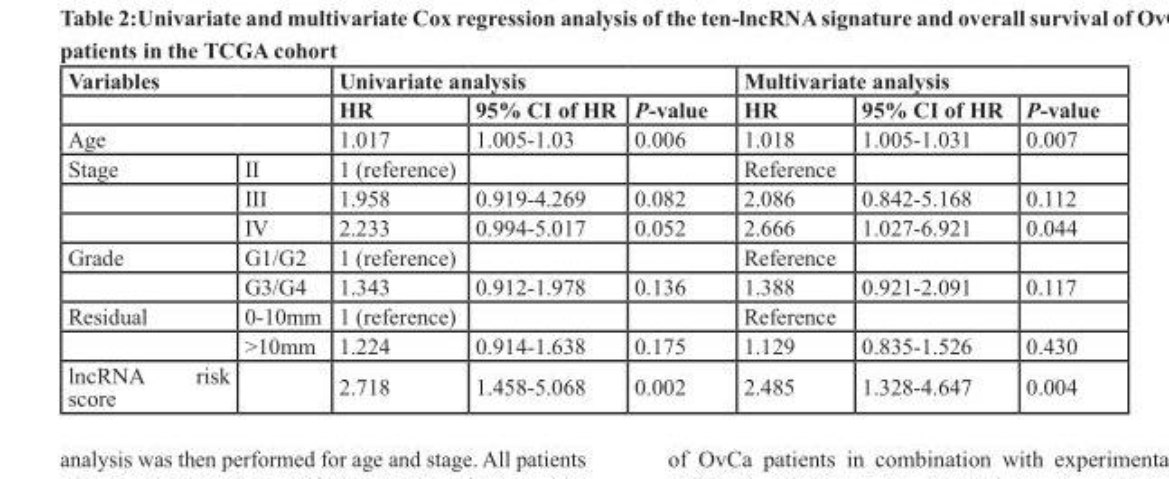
<table><thead><tr><td colspan="2">Variables</td><td colspan="3">Univariate analysis</td><td colspan="3">Multivariate analysis</td></tr><tr><td></td><td></td><td>HR</td><td>95% CI of HR</td><td>P-value</td><td>HR</td><td>95% CI of HR</td><td>P-value</td></tr></thead><tbody><tr><td colspan="2">Age</td><td>1.017</td><td>1.005-1.03</td><td>0.006</td><td>1.018</td><td>1.005-1.031</td><td>0.007</td></tr><tr><td rowspan="3">Stage</td><td>II</td><td>1 (reference)</td><td></td><td></td><td>Reference</td><td></td><td></td></tr><tr><td>III</td><td>1.958</td><td>0.919-4.269</td><td>0.082</td><td>2.086</td><td>0.842-5.168</td><td>0.112</td></tr><tr><td>IV</td><td>2.233</td><td>0.994-5.017</td><td>0.052</td><td>2.666</td><td>1.027-6.921</td><td>0.044</td></tr><tr><td rowspan="2">Grade</td><td>G1/G2</td><td>1 (reference)</td><td></td><td></td><td>Reference</td><td></td><td></td></tr><tr><td>G3/G4</td><td>1.343</td><td>0.912-1.978</td><td>0.136</td><td>1.388</td><td>0.921-2.091</td><td>0.117</td></tr><tr><td rowspan="2">Residual</td><td>0-10mm</td><td>1 (reference)</td><td></td><td></td><td>Reference</td><td></td><td></td></tr><tr><td>&gt;10mm</td><td>1.224</td><td>0.914-1.638</td><td>0.175</td><td>1.129</td><td>0.835-1.526</td><td>0.430</td></tr><tr><td>lncRNA risk score</td><td></td><td>2.718</td><td>1.458-5.068</td><td>0.002</td><td>2.485</td><td>1.328-4.647</td><td>0.004</td></tr></tbody></table>